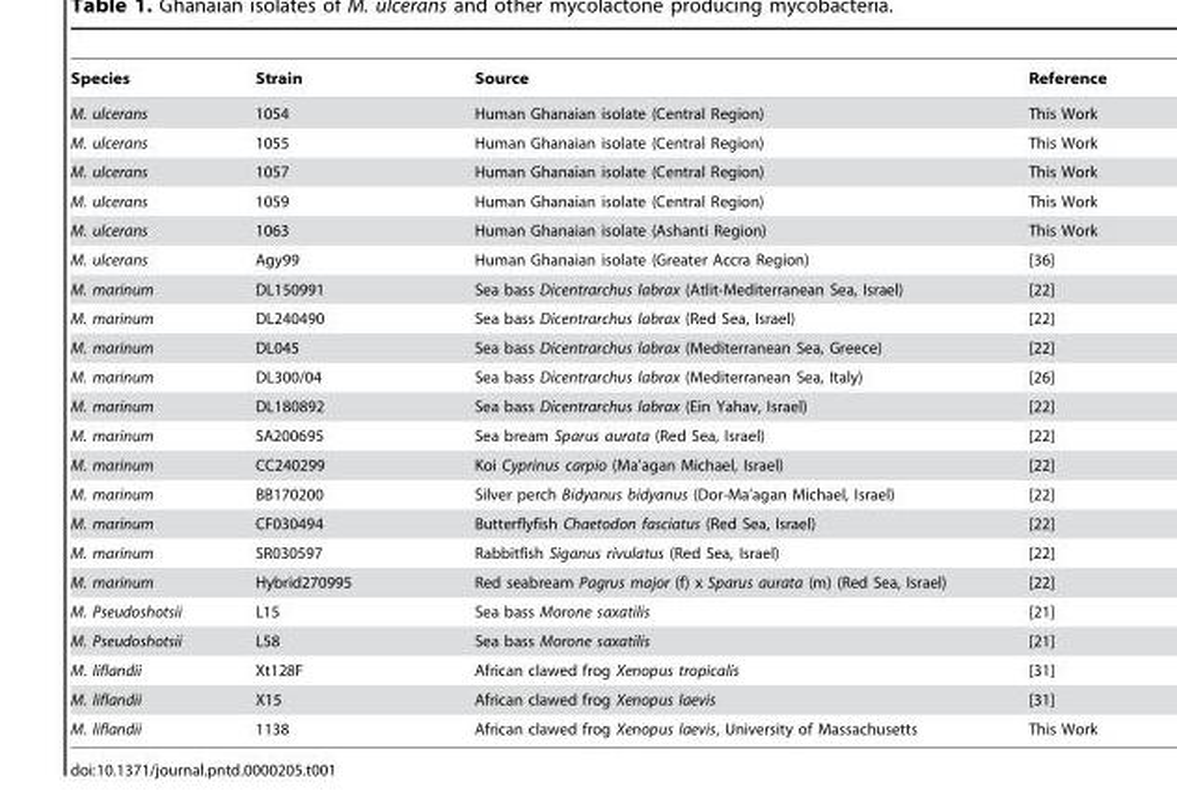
<table><thead><tr><td>Species</td><td>Strain</td><td>Source</td><td>Reference</td></tr></thead><tbody><tr><td>M. ulcerans</td><td>1054</td><td>Human Ghanaian isolate (Central Region)</td><td>This Work</td></tr><tr><td>M. ulcerans</td><td>1055</td><td>Human Ghanaian isolate (Central Region)</td><td>This Work</td></tr><tr><td>M. ulcerans</td><td>1057</td><td>Human Ghanaian isolate (Central Region)</td><td>This Work</td></tr><tr><td>M. ulcerans</td><td>1059</td><td>Human Ghanaian isolate (Central Region)</td><td>This Work</td></tr><tr><td>M. ulcerans</td><td>1063</td><td>Human Ghanaian isolate (Ashanti Region)</td><td>This Work</td></tr><tr><td>M. ulcerans</td><td>Agy99</td><td>Human Ghanaian isolate (Greater Accra Region)</td><td>[36]</td></tr><tr><td>M. marinum</td><td>DL150991</td><td>Sea bass Dicentrarchus labrax (Atlit-Mediterranean Sea, Israel)</td><td>[22]</td></tr><tr><td>M. marinum</td><td>DL240490</td><td>Sea bass Dicentrarchus labrax (Red Sea, Israel)</td><td>[22]</td></tr><tr><td>M. marinum</td><td>DL045</td><td>Sea bass Dicentrarchus labrax (Mediterranean Sea, Greece)</td><td>[22]</td></tr><tr><td>M. marinum</td><td>DL300/04</td><td>Sea bass Dicentrarchus labrax (Mediterranean Sea, Italy)</td><td>[26]</td></tr><tr><td>M. marinum</td><td>DL180892</td><td>Sea bass Dicentrarchus labrax (Ein Yahav, Israel)</td><td>[22]</td></tr><tr><td>M. marinum</td><td>SA200695</td><td>Sea bream Sparus aurata (Red Sea, Israel)</td><td>[22]</td></tr><tr><td>M. marinum</td><td>CC240299</td><td>Koi Cyprinus carpio (Ma’agan Michael, Israel)</td><td>[22]</td></tr><tr><td>M. marinum</td><td>BB170200</td><td>Silver perch Bidyanus bidyanus (Dor-Ma’agan Michael, Israel)</td><td>[22]</td></tr><tr><td>M. marinum</td><td>CF030494</td><td>Butterflyfish Chaetodon fasciatus (Red Sea, Israel)</td><td>[22]</td></tr><tr><td>M. marinum</td><td>SR030597</td><td>Rabbitfish Siganus rivulatus (Red Sea, Israel)</td><td>[22]</td></tr><tr><td>M. marinum</td><td>Hybrid270995</td><td>Red seabream Pagrus major (f) x Sparus aurata (m) (Red Sea, Israel)</td><td>[22]</td></tr><tr><td>M. Pseudoshotsii</td><td>L15</td><td>Sea bass Morone saxatilis</td><td>[21]</td></tr><tr><td>M. Pseudoshotsii</td><td>L58</td><td>Sea bass Morone saxatilis</td><td>[21]</td></tr><tr><td>M. liflandii</td><td>Xt128F</td><td>African clawed frog Xenopus tropicalis</td><td>[31]</td></tr><tr><td>M. liflandii</td><td>X15</td><td>African clawed frog Xenopus laevis</td><td>[31]</td></tr><tr><td>M. liflandii</td><td>1138</td><td>African clawed frog Xenopus laevis, University of Massachusetts</td><td>This Work</td></tr></tbody></table>